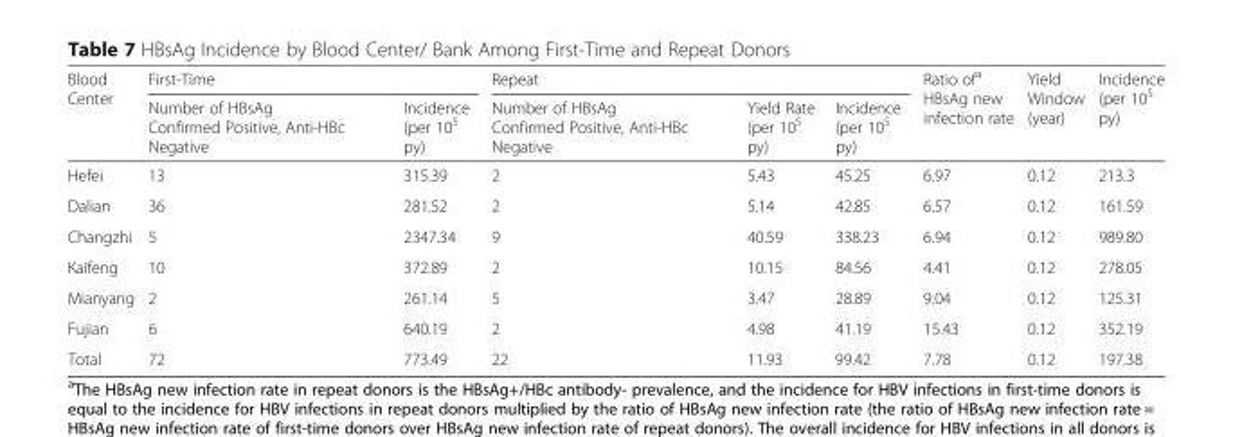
<table><thead><tr><td rowspan="2">Blood Center</td><td colspan="2">First-Time</td><td colspan="3">Repeat</td><td rowspan="2">Ratio of<sup>a</sup> HBsAg new infection rate</td><td rowspan="2">Yield Window (year)</td><td rowspan="2">Incidence (per 10<sup>5</sup> py)</td></tr><tr><td>Number of HBsAg Confirmed Positive, Anti-HBc Negative</td><td>Incidence (per 10<sup>5</sup> py)</td><td>Number of HBsAg Confirmed Positive, Anti-HBc Negative</td><td>Yield Rate (per 10<sup>5</sup> py)</td><td>Incidence (per 10<sup>5</sup> py)</td></tr></thead><tbody><tr><td>Hefei</td><td>13</td><td>315.39</td><td>2</td><td>5.43</td><td>45.25</td><td>6.97</td><td>0.12</td><td>213.3</td></tr><tr><td>Dalian</td><td>36</td><td>281.52</td><td>2</td><td>5.14</td><td>42.85</td><td>6.57</td><td>0.12</td><td>161.59</td></tr><tr><td>Changzhi</td><td>5</td><td>2347.34</td><td>9</td><td>40.59</td><td>338.23</td><td>6.94</td><td>0.12</td><td>989.80</td></tr><tr><td>Kaifeng</td><td>10</td><td>372.89</td><td>2</td><td>10.15</td><td>84.56</td><td>4.41</td><td>0.12</td><td>278.05</td></tr><tr><td>Mianyang</td><td>2</td><td>261.14</td><td>5</td><td>3.47</td><td>28.89</td><td>9.04</td><td>0.12</td><td>125.31</td></tr><tr><td>Fujian</td><td>6</td><td>640.19</td><td>2</td><td>4.98</td><td>41.19</td><td>15.43</td><td>0.12</td><td>352.19</td></tr><tr><td>Total</td><td>72</td><td>773.49</td><td>22</td><td>11.93</td><td>99.42</td><td>7.78</td><td>0.12</td><td>197.38</td></tr></tbody></table>